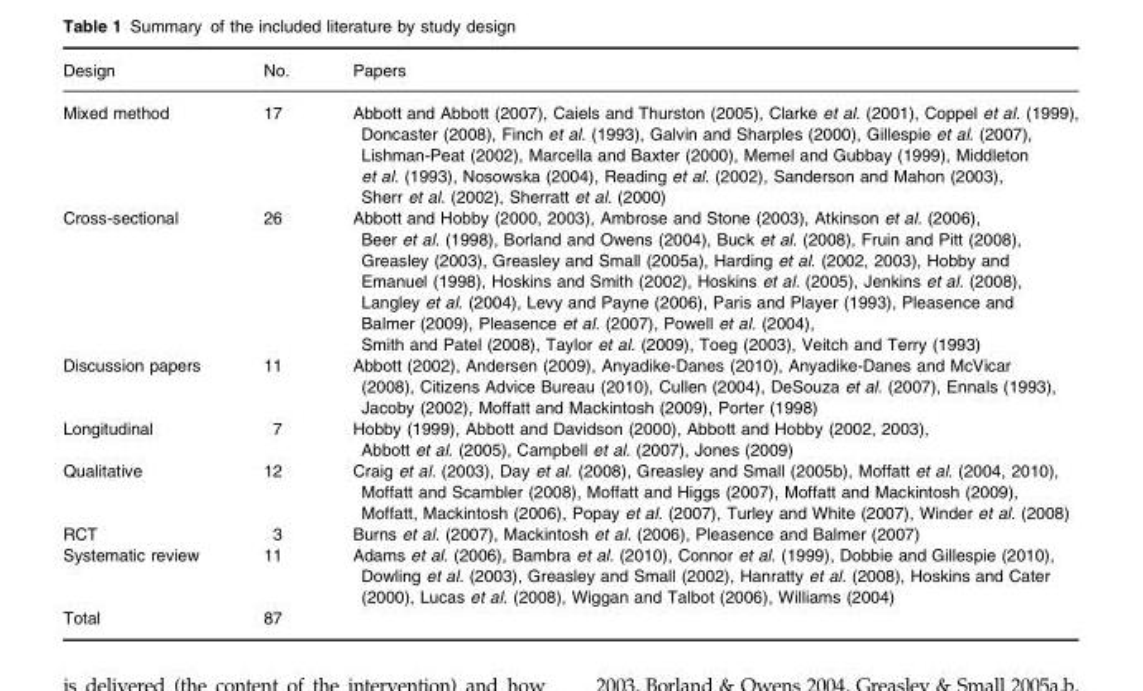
<table><thead><tr><td>Design</td><td>No.</td><td>Papers</td></tr></thead><tbody><tr><td>Mixed method</td><td>17</td><td>Abbott and Abbott (2007), Caiels and Thurston (2005), Clarke et al. (2001), Coppel et al. (1999), Doncaster (2008), Finch et al. (1993), Galvin and Sharples (2000), Gillespie et al. (2007), Lishman-Peat (2002), Marcella and Baxter (2000), Memel and Gubbay (1999), Middleton et al. (1993), Nosowska (2004), Reading et al. (2002), Sanderson and Mahon (2003), Sherr et al. (2002), Sherratt et al. (2000)</td></tr><tr><td>Cross-sectional</td><td>26</td><td>Abbott and Hobby (2000, 2003), Ambrose and Stone (2003), Atkinson et al. (2006), Beer et al. (1998), Borland and Owens (2004), Buck et al. (2008), Fruin and Pitt (2008), Greasley (2003), Greasley and Small (2005a), Harding et al. (2002, 2003), Hobby and Emanuel (1998), Hoskins and Smith (2002), Hoskins et al. (2005), Jenkins et al. (2008), Langley et al. (2004), Levy and Payne (2006), Paris and Player (1993), Pleasence and Balmer (2009), Pleasence et al. (2007), Powell et al. (2004), Smith and Patel (2008), Taylor et al. (2009), Toeg (2003), Veitch and Terry (1993)</td></tr><tr><td>Discussion papers</td><td>11</td><td>Abbott (2002), Andersen (2009), Anyadike-Danes (2010), Anyadike-Danes and McVicar (2008), Citizens Advice Bureau (2010), Cullen (2004), DeSouza et al. (2007), Ennals (1993), Jacoby (2002), Moffatt and Mackintosh (2009), Porter (1998)</td></tr><tr><td>Longitudinal</td><td>7</td><td>Hobby (1999), Abbott and Davidson (2000), Abbott and Hobby (2002, 2003), Abbott et al. (2005), Campbell et al. (2007), Jones (2009)</td></tr><tr><td>Qualitative</td><td>12</td><td>Craig et al. (2003), Day et al. (2008), Greasley and Small (2005b), Moffatt et al. (2004, 2010), Moffatt and Scambler (2008), Moffatt and Higgs (2007), Moffatt and Mackintosh (2009), Moffatt, Mackintosh (2006), Popay et al. (2007), Turley and White (2007), Winder et al. (2008)</td></tr><tr><td>RCT</td><td>3</td><td>Burns et al. (2007), Mackintosh et al. (2006), Pleasence and Balmer (2007)</td></tr><tr><td>Systematic review</td><td>11</td><td>Adams et al. (2006), Bambra et al. (2010), Connor et al. (1999), Dobbie and Gillespie (2010), Dowling et al. (2003), Greasley and Small (2002), Hanratty et al. (2008), Hoskins and Cater (2000), Lucas et al. (2008), Wiggan and Talbot (2006), Williams (2004)</td></tr><tr><td>Total</td><td>87</td><td></td></tr></tbody></table>